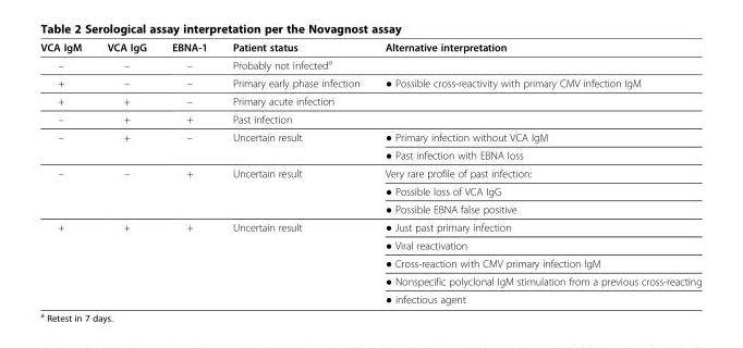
<table><thead><tr><td>VCA IgM</td><td>VCA IgG</td><td>EBNA-1</td><td>Patient status</td><td>Alternative interpretation</td></tr></thead><tbody><tr><td>–</td><td>–</td><td>–</td><td>Probably not infected<sup>a</sup></td><td></td></tr><tr><td>+</td><td>–</td><td>–</td><td>Primary early phase infection</td><td>● Possible cross-reactivity with primary CMV infection IgM</td></tr><tr><td>+</td><td>+</td><td>–</td><td>Primary acute infection</td><td></td></tr><tr><td>–</td><td>+</td><td>+</td><td>Past infection</td><td></td></tr><tr><td rowspan="2">–</td><td rowspan="2">+</td><td rowspan="2">–</td><td rowspan="2">Uncertain result</td><td>● Primary infection without VCA IgM</td></tr><tr><td>● Past infection with EBNA loss</td></tr><tr><td rowspan="3">–</td><td rowspan="3">–</td><td rowspan="3">+</td><td rowspan="3">Uncertain result</td><td>Very rare profile of past infection:</td></tr><tr><td>● Possible loss of VCA IgG</td></tr><tr><td>● Possible EBNA false positive</td></tr><tr><td rowspan="5">+</td><td rowspan="5">+</td><td rowspan="5">+</td><td rowspan="5">Uncertain result</td><td>● Just past primary infection</td></tr><tr><td>● Viral reactivation</td></tr><tr><td>● Cross-reaction with CMV primary infection IgM</td></tr><tr><td>● Nonspecific polyclonal IgM stimulation from a previous cross-reacting</td></tr><tr><td>● infectious agent</td></tr></tbody></table>